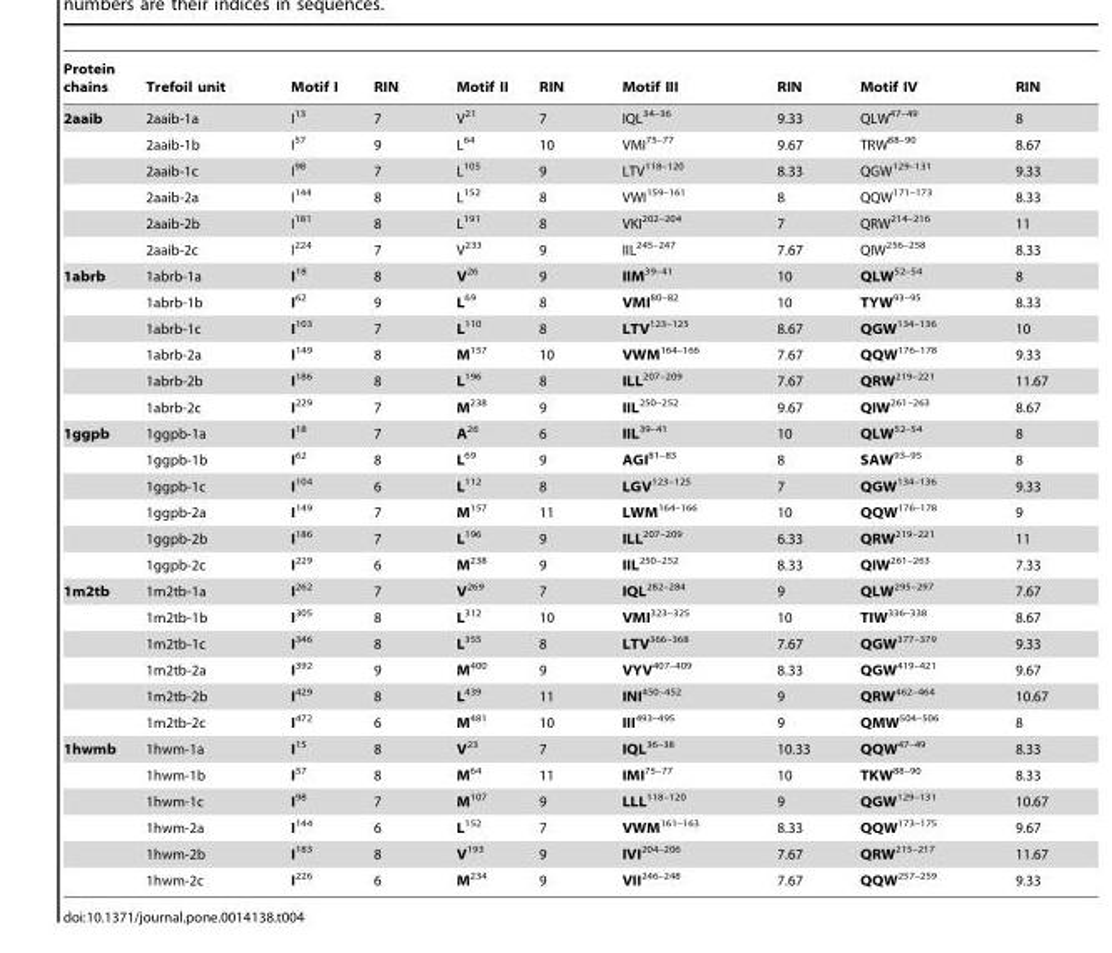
<table><thead><tr><td>Protein chains</td><td>Trefoil unit</td><td>Motif I</td><td>RIN</td><td>Motif II</td><td>RIN</td><td>Motif III</td><td>RIN</td><td>Motif IV</td><td>RIN</td></tr></thead><tbody><tr><td rowspan="6">2aaib</td><td>2aaib-1a</td><td>I<sup>13</sup></td><td>7</td><td>V<sup>21</sup></td><td>7</td><td>IQL<sup>34–36</sup></td><td>9.33</td><td>QLW<sup>47–49</sup></td><td>8</td></tr><tr><td>2aaib-1b</td><td>I<sup>57</sup></td><td>9</td><td>L<sup>64</sup></td><td>10</td><td>VMI<sup>75–77</sup></td><td>9.67</td><td>TRW<sup>88–90</sup></td><td>8.67</td></tr><tr><td>2aaib-1c</td><td>I<sup>98</sup></td><td>7</td><td>L<sup>105</sup></td><td>9</td><td>LTV<sup>118–120</sup></td><td>8.33</td><td>QGW<sup>129–131</sup></td><td>9.33</td></tr><tr><td>2aaib-2a</td><td>I<sup>144</sup></td><td>8</td><td>L<sup>152</sup></td><td>8</td><td>VWI<sup>159–161</sup></td><td>8</td><td>QQW<sup>171–173</sup></td><td>8.33</td></tr><tr><td>2aaib-2b</td><td>I<sup>181</sup></td><td>8</td><td>L<sup>191</sup></td><td>8</td><td>VKI<sup>202–204</sup></td><td>7</td><td>QRW<sup>214–216</sup></td><td>11</td></tr><tr><td>2aaib-2c</td><td>I<sup>224</sup></td><td>7</td><td>V<sup>233</sup></td><td>9</td><td>IIL<sup>245–247</sup></td><td>7.67</td><td>QIW<sup>256–258</sup></td><td>8.33</td></tr><tr><td rowspan="6">1abrb</td><td>1abrb-1a</td><td>I<sup>18</sup></td><td>8</td><td>V<sup>26</sup></td><td>9</td><td>IIM<sup>39–41</sup></td><td>10</td><td>QLW<sup>52–54</sup></td><td>8</td></tr><tr><td>1abrb-1b</td><td>I<sup>62</sup></td><td>9</td><td>L<sup>69</sup></td><td>8</td><td>VMI<sup>80–82</sup></td><td>10</td><td>TYW<sup>93–95</sup></td><td>8.33</td></tr><tr><td>1abrb-1c</td><td>I<sup>103</sup></td><td>7</td><td>L<sup>110</sup></td><td>8</td><td>LTV<sup>123–125</sup></td><td>8.67</td><td>QGW<sup>134–136</sup></td><td>10</td></tr><tr><td>1abrb-2a</td><td>I<sup>149</sup></td><td>8</td><td>M<sup>157</sup></td><td>10</td><td>VWM<sup>164–166</sup></td><td>7.67</td><td>QQW<sup>176–178</sup></td><td>9.33</td></tr><tr><td>1abrb-2b</td><td>I<sup>186</sup></td><td>8</td><td>L<sup>196</sup></td><td>8</td><td>ILL<sup>207–209</sup></td><td>7.67</td><td>QRW<sup>219–221</sup></td><td>11.67</td></tr><tr><td>1abrb-2c</td><td>I<sup>229</sup></td><td>7</td><td>M<sup>238</sup></td><td>9</td><td>IIL<sup>250–252</sup></td><td>9.67</td><td>QIW<sup>261–263</sup></td><td>8.67</td></tr><tr><td rowspan="6">1ggpb</td><td>1ggpb-1a</td><td>I<sup>18</sup></td><td>7</td><td>A<sup>26</sup></td><td>6</td><td>IIL<sup>39–41</sup></td><td>10</td><td>QLW<sup>52–54</sup></td><td>8</td></tr><tr><td>1ggpb-1b</td><td>I<sup>62</sup></td><td>8</td><td>L<sup>69</sup></td><td>9</td><td>AGI<sup>81–83</sup></td><td>8</td><td>SAW<sup>93–95</sup></td><td>8</td></tr><tr><td>1ggpb-1c</td><td>I<sup>104</sup></td><td>6</td><td>L<sup>112</sup></td><td>8</td><td>LGV<sup>123–125</sup></td><td>7</td><td>QGW<sup>134–136</sup></td><td>9.33</td></tr><tr><td>1ggpb-2a</td><td>I<sup>149</sup></td><td>7</td><td>M<sup>157</sup></td><td>11</td><td>LWM<sup>164–166</sup></td><td>10</td><td>QQW<sup>176–178</sup></td><td>9</td></tr><tr><td>1ggpb-2b</td><td>I<sup>186</sup></td><td>7</td><td>L<sup>196</sup></td><td>9</td><td>ILL<sup>207–209</sup></td><td>6.33</td><td>QRW<sup>219–221</sup></td><td>11</td></tr><tr><td>1ggpb-2c</td><td>I<sup>229</sup></td><td>6</td><td>M<sup>238</sup></td><td>9</td><td>IIL<sup>250–252</sup></td><td>8.33</td><td>QIW<sup>261–263</sup></td><td>7.33</td></tr><tr><td rowspan="6">1m2tb</td><td>1m2tb-1a</td><td>I<sup>262</sup></td><td>7</td><td>V<sup>269</sup></td><td>7</td><td>IQL<sup>282–284</sup></td><td>9</td><td>QLW<sup>295–297</sup></td><td>7.67</td></tr><tr><td>1m2tb-1b</td><td>I<sup>305</sup></td><td>8</td><td>L<sup>312</sup></td><td>10</td><td>VMI<sup>323–325</sup></td><td>10</td><td>TIW<sup>336–338</sup></td><td>8.67</td></tr><tr><td>1m2tb-1c</td><td>I<sup>346</sup></td><td>8</td><td>L<sup>355</sup></td><td>8</td><td>LTV<sup>366–368</sup></td><td>7.67</td><td>QGW<sup>377–379</sup></td><td>9.33</td></tr><tr><td>1m2tb-2a</td><td>I<sup>392</sup></td><td>9</td><td>M<sup>400</sup></td><td>9</td><td>VYV<sup>407–409</sup></td><td>8.33</td><td>QGW<sup>419–421</sup></td><td>9.67</td></tr><tr><td>1m2tb-2b</td><td>I<sup>429</sup></td><td>8</td><td>L<sup>439</sup></td><td>11</td><td>INI<sup>450–452</sup></td><td>9</td><td>QRW<sup>462–464</sup></td><td>10.67</td></tr><tr><td>1m2tb-2c</td><td>I<sup>472</sup></td><td>6</td><td>M<sup>481</sup></td><td>10</td><td>III<sup>493–495</sup></td><td>9</td><td>QMW<sup>504–506</sup></td><td>8</td></tr><tr><td rowspan="6">1hwmb</td><td>1hwm-1a</td><td>I<sup>15</sup></td><td>8</td><td>V<sup>23</sup></td><td>7</td><td>IQL<sup>36–38</sup></td><td>10.33</td><td>QQW<sup>47–49</sup></td><td>8.33</td></tr><tr><td>1hwm-1b</td><td>I<sup>57</sup></td><td>8</td><td>M<sup>64</sup></td><td>11</td><td>IMI<sup>75–77</sup></td><td>10</td><td>TKW<sup>88–90</sup></td><td>8.33</td></tr><tr><td>1hwm-1c</td><td>I<sup>98</sup></td><td>7</td><td>M<sup>107</sup></td><td>9</td><td>LLL<sup>118–120</sup></td><td>9</td><td>QGW<sup>129–131</sup></td><td>10.67</td></tr><tr><td>1hwm-2a</td><td>I<sup>144</sup></td><td>6</td><td>L<sup>152</sup></td><td>7</td><td>VWM<sup>161–163</sup></td><td>8.33</td><td>QQW<sup>173–175</sup></td><td>9.67</td></tr><tr><td>1hwm-2b</td><td>I<sup>183</sup></td><td>8</td><td>V<sup>193</sup></td><td>9</td><td>IVI<sup>204–206</sup></td><td>7.67</td><td>QRW<sup>215–217</sup></td><td>11.67</td></tr><tr><td>1hwm-2c</td><td>I<sup>226</sup></td><td>6</td><td>M<sup>234</sup></td><td>9</td><td>VII<sup>246–248</sup></td><td>7.67</td><td>QQW<sup>257–259</sup></td><td>9.33</td></tr></tbody></table>